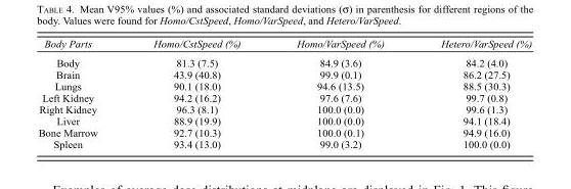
<table><thead><tr><td>Body Parts</td><td>Homo/CstSpeed (%)</td><td>Homo/VarSpeed (%)</td><td>Hetero/VarSpeed (%)</td></tr></thead><tbody><tr><td>Body</td><td>81.3 (7.5)</td><td>84.9 (3.6)</td><td>84.2 (4.0)</td></tr><tr><td>Brain</td><td>43.9 (40.8)</td><td>99.9 (0.1)</td><td>86.2 (27.5)</td></tr><tr><td>Lungs</td><td>90.1 (18.0)</td><td>94.6 (13.5)</td><td>88.5 (30.3)</td></tr><tr><td>Left Kidney</td><td>94.2 (16.2)</td><td>97.6 (7.6)</td><td>99.7 (0.8)</td></tr><tr><td>Right Kidney</td><td>96.3 (8.1)</td><td>100.0 (0.0)</td><td>99.6 (1.3)</td></tr><tr><td>Liver</td><td>88.9 (19.9)</td><td>100.0 (0.0)</td><td>94.1 (18.4)</td></tr><tr><td>Bone Marrow</td><td>92.7 (10.3)</td><td>100.0 (0.1)</td><td>94.9 (16.0)</td></tr><tr><td>Spleen</td><td>93.4 (13.0)</td><td>99.0 (3.2)</td><td>100.0 (0.0)</td></tr></tbody></table>